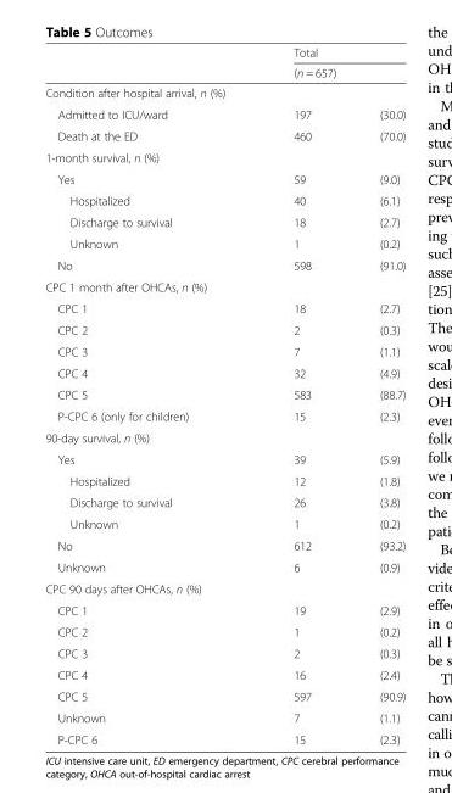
<table><thead><tr><td rowspan="3">Condition after hospital arrival, n (%)</td><td rowspan="2" colspan="2">Total (n = 657)</td></tr><tr></tr><tr><td></td><td></td></tr></thead><tbody><tr><td>Admitted to ICU/ward</td><td>197</td><td>(30.0)</td></tr><tr><td>Death at the ED</td><td>460</td><td>(70.0)</td></tr><tr><td colspan="3">1-month survival, n (%)</td></tr><tr><td>Yes</td><td>59</td><td>(9.0)</td></tr><tr><td>Hospitalized</td><td>40</td><td>(6.1)</td></tr><tr><td>Discharge to survival</td><td>18</td><td>(2.7)</td></tr><tr><td>Unknown</td><td>1</td><td>(0.2)</td></tr><tr><td>No</td><td>598</td><td>(91.0)</td></tr><tr><td colspan="3">CPC 1 month after OHCAs, n (%)</td></tr><tr><td>CPC 1</td><td>18</td><td>(2.7)</td></tr><tr><td>CPC 2</td><td>2</td><td>(0.3)</td></tr><tr><td>CPC 3</td><td>7</td><td>(1.1)</td></tr><tr><td>CPC 4</td><td>32</td><td>(4.9)</td></tr><tr><td>CPC 5</td><td>583</td><td>(88.7)</td></tr><tr><td>P-CPC 6 (only for children)</td><td>15</td><td>(2.3)</td></tr><tr><td colspan="3">90-day survival, n (%)</td></tr><tr><td>Yes</td><td>39</td><td>(5.9)</td></tr><tr><td>Hospitalized</td><td>12</td><td>(1.8)</td></tr><tr><td>Discharge to survival</td><td>26</td><td>(3.8)</td></tr><tr><td>Unknown</td><td>1</td><td>(0.2)</td></tr><tr><td>No</td><td>612</td><td>(93.2)</td></tr><tr><td>Unknown</td><td>6</td><td>(0.9)</td></tr><tr><td colspan="3">CPC 90 days after OHCAs, n (%)</td></tr><tr><td>CPC 1</td><td>19</td><td>(2.9)</td></tr><tr><td>CPC 2</td><td>1</td><td>(0.2)</td></tr><tr><td>CPC 3</td><td>2</td><td>(0.3)</td></tr><tr><td>CPC 4</td><td>16</td><td>(2.4)</td></tr><tr><td>CPC 5</td><td>597</td><td>(90.9)</td></tr><tr><td>Unknown</td><td>7</td><td>(1.1)</td></tr><tr><td>P-CPC 6</td><td>15</td><td>(2.3)</td></tr></tbody></table>